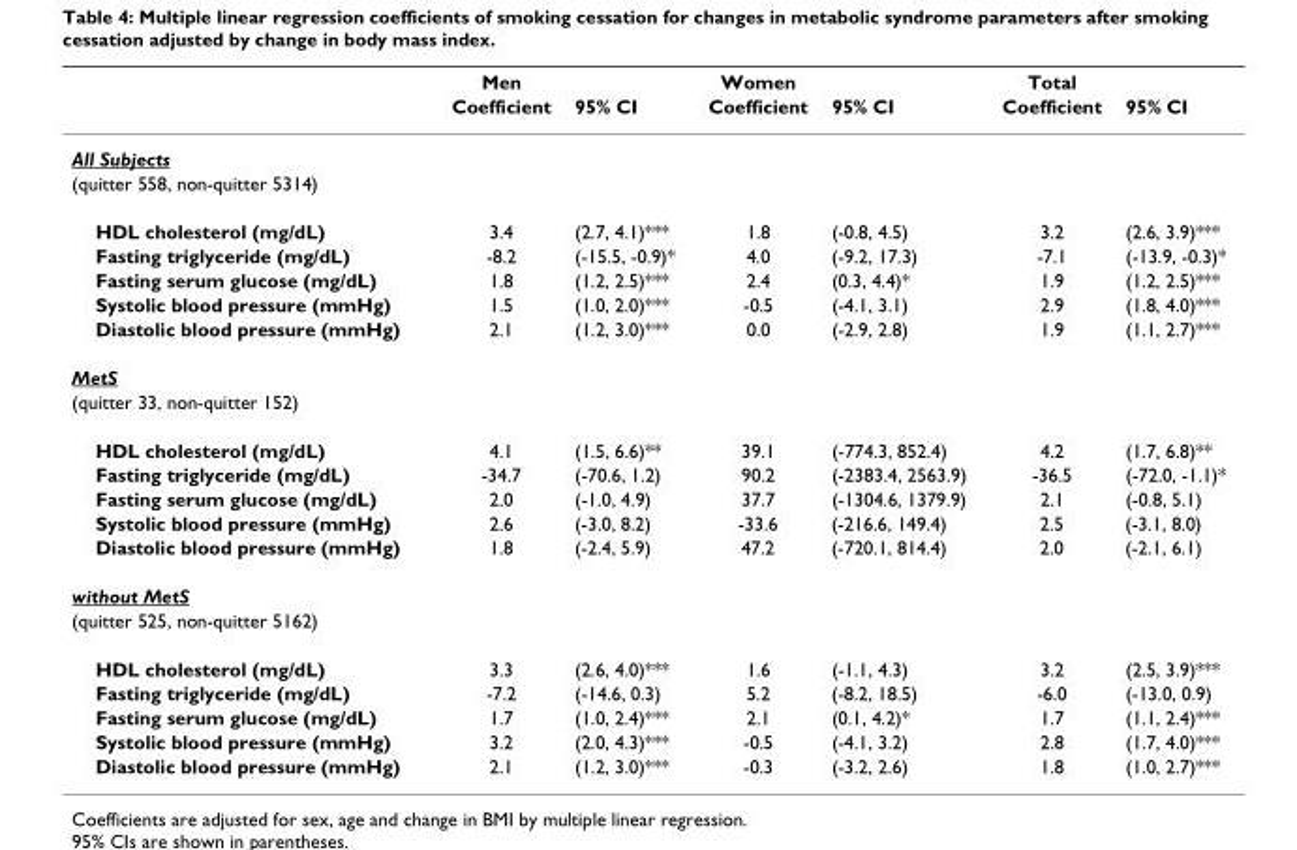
<table><thead><tr><td rowspan="2"></td><td rowspan="2">Men Coefficient</td><td rowspan="2">95% CI</td><td rowspan="2">Women Coefficient</td><td rowspan="2">95% CI</td><td rowspan="2">Total Coefficient</td><td rowspan="2">95% CI</td></tr><tr></tr></thead><tbody><tr><td colspan="7">All Subjects</td></tr><tr><td colspan="7">(quitter 558, non-quitter 5314)</td></tr><tr><td>HDL cholesterol (mg/dL)</td><td>3.4</td><td>(2.7, 4.1)***</td><td>1.8</td><td>(-0.8, 4.5)</td><td>3.2</td><td>(2.6, 3.9)***</td></tr><tr><td>Fasting triglyceride (mg/dL)</td><td>-8.2</td><td>(-15.5, -0.9)*</td><td>4.0</td><td>(-9.2, 17.3)</td><td>-7.1</td><td>(-13.9, -0.3)*</td></tr><tr><td>Fasting serum glucose (mg/dL)</td><td>1.8</td><td>(1.2, 2.5)***</td><td>2.4</td><td>(0.3, 4.4)*</td><td>1.9</td><td>(1.2, 2.5)***</td></tr><tr><td>Systolic blood pressure (mmHg)</td><td>1.5</td><td>(1.0, 2.0)***</td><td>-0.5</td><td>(-4.1, 3.1)</td><td>2.9</td><td>(1.8, 4.0)***</td></tr><tr><td>Diastolic blood pressure (mmHg)</td><td>2.1</td><td>(1.2, 3.0)***</td><td>0.0</td><td>(-2.9, 2.8)</td><td>1.9</td><td>(1.1, 2.7)***</td></tr><tr><td colspan="7">MetS</td></tr><tr><td colspan="7">(quitter 33, non-quitter 152)</td></tr><tr><td>HDL cholesterol (mg/dL)</td><td>4.1</td><td>(1.5, 6.6)**</td><td>39.1</td><td>(-774.3, 852.4)</td><td>4.2</td><td>(1.7, 6.8)**</td></tr><tr><td>Fasting triglyceride (mg/dL)</td><td>-34.7</td><td>(-70.6, 1.2)</td><td>90.2</td><td>(-2383.4, 2563.9)</td><td>-36.5</td><td>(-72.0, -1.1)*</td></tr><tr><td>Fasting serum glucose (mg/dL)</td><td>2.0</td><td>(-1.0, 4.9)</td><td>37.7</td><td>(-1304.6, 1379.9)</td><td>2.1</td><td>(-0.8, 5.1)</td></tr><tr><td>Systolic blood pressure (mmHg)</td><td>2.6</td><td>(-3.0, 8.2)</td><td>-33.6</td><td>(-216.6, 149.4)</td><td>2.5</td><td>(-3.1, 8.0)</td></tr><tr><td>Diastolic blood pressure (mmHg)</td><td>1.8</td><td>(-2.4, 5.9)</td><td>47.2</td><td>(-720.1, 814.4)</td><td>2.0</td><td>(-2.1, 6.1)</td></tr><tr><td colspan="7">without MetS</td></tr><tr><td colspan="7">(quitter 525, non-quitter 5162)</td></tr><tr><td>HDL cholesterol (mg/dL)</td><td>3.3</td><td>(2.6, 4.0)***</td><td>1.6</td><td>(-1.1, 4.3)</td><td>3.2</td><td>(2.5, 3.9)***</td></tr><tr><td>Fasting triglyceride (mg/dL)</td><td>-7.2</td><td>(-14.6, 0.3)</td><td>5.2</td><td>(-8.2, 18.5)</td><td>-6.0</td><td>(-13.0, 0.9)</td></tr><tr><td>Fasting serum glucose (mg/dL)</td><td>1.7</td><td>(1.0, 2.4)***</td><td>2.1</td><td>(0.1, 4.2)*</td><td>1.7</td><td>(1.1, 2.4)***</td></tr><tr><td>Systolic blood pressure (mmHg)</td><td>3.2</td><td>(2.0, 4.3)***</td><td>-0.5</td><td>(-4.1, 3.2)</td><td>2.8</td><td>(1.7, 4.0)***</td></tr><tr><td>Diastolic blood pressure (mmHg)</td><td>2.1</td><td>(1.2, 3.0)***</td><td>-0.3</td><td>(-3.2, 2.6)</td><td>1.8</td><td>(1.0, 2.7)***</td></tr></tbody></table>